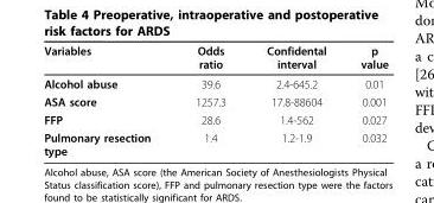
<table><thead><tr><td>Variables</td><td>Odds ratio</td><td>Confidental interval</td><td>p value</td></tr></thead><tbody><tr><td>Alcohol abuse</td><td>39.6</td><td>2.4-645.2</td><td>0.01</td></tr><tr><td>ASA score</td><td>1257.3</td><td>17.8-88604</td><td>0.001</td></tr><tr><td>FFP</td><td>28.6</td><td>1.4-562</td><td>0.027</td></tr><tr><td>Pulmonary resection type</td><td>1.4</td><td>1.2-1.9</td><td>0.032</td></tr></tbody></table>